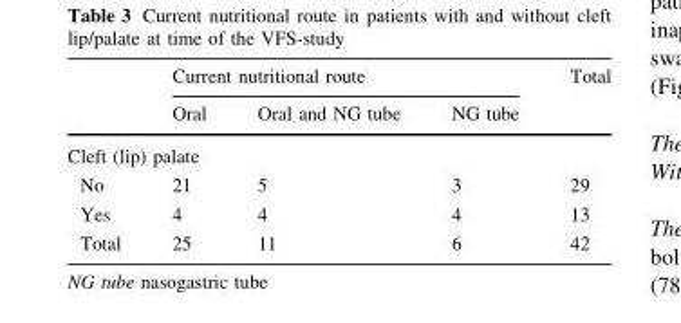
<table><thead><tr><td rowspan="2"></td><td colspan="3">Current nutritional route</td><td rowspan="2">Total</td></tr><tr><td>Oral</td><td>Oral and NG tube</td><td>NG tube</td></tr></thead><tbody><tr><td colspan="5">Cleft (lip) palate</td></tr><tr><td>No</td><td>21</td><td>5</td><td>3</td><td>29</td></tr><tr><td>Yes</td><td>4</td><td>4</td><td>4</td><td>13</td></tr><tr><td>Total</td><td>25</td><td>11</td><td>6</td><td>42</td></tr></tbody></table>